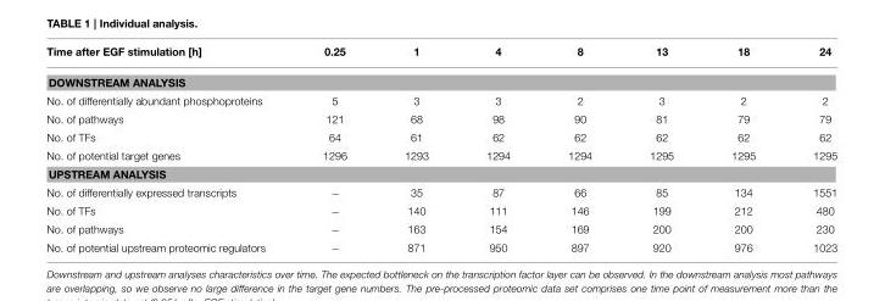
<table><thead><tr><td>Time after EGF stimulation [h]</td><td>0.25</td><td>1</td><td>4</td><td>8</td><td>13</td><td>18</td><td>24</td></tr></thead><tbody><tr><td colspan="8">DOWNSTREAM ANALYSIS</td></tr><tr><td>No. of differentially abundant phosphoproteins</td><td>5</td><td>3</td><td>3</td><td>2</td><td>3</td><td>2</td><td>2</td></tr><tr><td>No. of pathways</td><td>121</td><td>68</td><td>98</td><td>90</td><td>81</td><td>79</td><td>79</td></tr><tr><td>No. of TFs</td><td>64</td><td>61</td><td>62</td><td>62</td><td>62</td><td>62</td><td>62</td></tr><tr><td>No. of potential target genes</td><td>1296</td><td>1293</td><td>1294</td><td>1294</td><td>1295</td><td>1295</td><td>1295</td></tr><tr><td colspan="8">UPSTREAM ANALYSIS</td></tr><tr><td>No. of differentially expressed transcripts</td><td>−</td><td>35</td><td>87</td><td>66</td><td>85</td><td>134</td><td>1551</td></tr><tr><td>No. of TFs</td><td>−</td><td>140</td><td>111</td><td>146</td><td>199</td><td>212</td><td>480</td></tr><tr><td>No. of pathways</td><td>−</td><td>163</td><td>154</td><td>169</td><td>200</td><td>200</td><td>230</td></tr><tr><td>No. of potential upstream proteomic regulators</td><td>−</td><td>871</td><td>950</td><td>897</td><td>920</td><td>976</td><td>1023</td></tr></tbody></table>